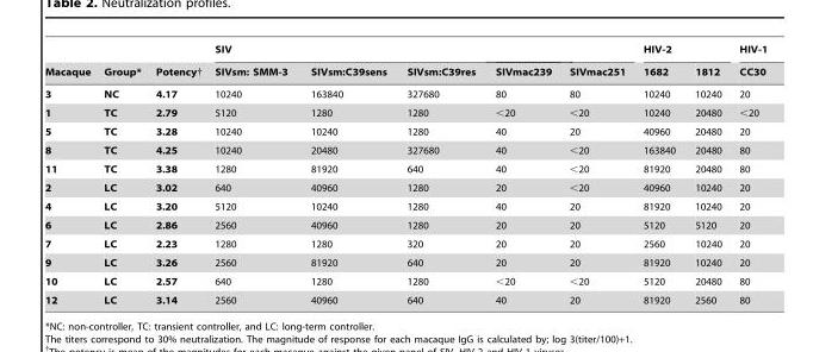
<table><thead><tr><td rowspan="2">Macaque</td><td rowspan="2">Group*</td><td rowspan="2">Potency†</td><td colspan="3">SIV</td><td rowspan="2">SIVmac239</td><td rowspan="2">SIVmac251</td><td colspan="2">HIV-2</td><td rowspan="2">HIV-1 CC30</td></tr><tr><td>SIVsm: SMM-3</td><td>SIVsm:C39sens</td><td>SIVsm:C39res</td><td>1682</td><td>1812</td></tr></thead><tbody><tr><td>3</td><td>NC</td><td>4.17</td><td>10240</td><td>163840</td><td>327680</td><td>80</td><td>80</td><td>10240</td><td>10240</td><td>20</td></tr><tr><td>1</td><td>TC</td><td>2.79</td><td>5120</td><td>1280</td><td>1280</td><td>&lt;20</td><td>&lt;20</td><td>10240</td><td>20480</td><td>&lt;20</td></tr><tr><td>5</td><td>TC</td><td>3.28</td><td>10240</td><td>10240</td><td>1280</td><td>40</td><td>20</td><td>40960</td><td>20480</td><td>20</td></tr><tr><td>8</td><td>TC</td><td>4.25</td><td>10240</td><td>20480</td><td>327680</td><td>40</td><td>&lt;20</td><td>163840</td><td>20480</td><td>80</td></tr><tr><td>11</td><td>TC</td><td>3.38</td><td>1280</td><td>81920</td><td>640</td><td>40</td><td>&lt;20</td><td>81920</td><td>20480</td><td>80</td></tr><tr><td>2</td><td>LC</td><td>3.02</td><td>640</td><td>40960</td><td>1280</td><td>20</td><td>&lt;20</td><td>40960</td><td>10240</td><td>20</td></tr><tr><td>4</td><td>LC</td><td>3.20</td><td>5120</td><td>10240</td><td>1280</td><td>40</td><td>20</td><td>81920</td><td>10240</td><td>20</td></tr><tr><td>6</td><td>LC</td><td>2.86</td><td>2560</td><td>40960</td><td>1280</td><td>20</td><td>20</td><td>5120</td><td>5120</td><td>20</td></tr><tr><td>7</td><td>LC</td><td>2.23</td><td>1280</td><td>1280</td><td>320</td><td>20</td><td>20</td><td>2560</td><td>10240</td><td>20</td></tr><tr><td>9</td><td>LC</td><td>3.26</td><td>2560</td><td>81920</td><td>640</td><td>20</td><td>20</td><td>81920</td><td>10240</td><td>20</td></tr><tr><td>10</td><td>LC</td><td>2.57</td><td>640</td><td>1280</td><td>1280</td><td>&lt;20</td><td>&lt;20</td><td>5120</td><td>20480</td><td>80</td></tr><tr><td>12</td><td>LC</td><td>3.14</td><td>2560</td><td>40960</td><td>640</td><td>40</td><td>20</td><td>81920</td><td>2560</td><td>80</td></tr></tbody></table>